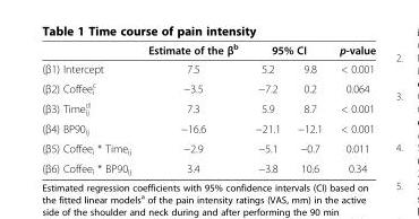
<table><thead><tr><td rowspan="2">(β1) Intercept</td><td rowspan="2">Estimate of the β<sup>b</sup> 7.5</td><td colspan="2">95% CI</td><td rowspan="2">p-value &lt; 0.001</td></tr><tr><td>5.2</td><td>9.8</td></tr></thead><tbody><tr><td>(β2) Coffee<sub>i</sub> <sup>c</sup></td><td>−3.5</td><td>−7.2</td><td>0.2</td><td>0.064</td></tr><tr><td>(β3) Time<sub>ij</sub> <sup>d</sup></td><td>7.3</td><td>5.9</td><td>8.7</td><td>&lt; 0.001</td></tr><tr><td>(β4) BP90<sub>ij</sub></td><td>−16.6</td><td>−21.1</td><td>−12.1</td><td>&lt; 0.001</td></tr><tr><td>(β5) Coffee<sub>i</sub> * Time<sub>ij</sub></td><td>−2.9</td><td>−5.1</td><td>−0.7</td><td>0.011</td></tr><tr><td>(β6) Coffee<sub>i</sub> * BP90<sub>ij</sub></td><td>3.4</td><td>−3.8</td><td>10.6</td><td>0.34</td></tr></tbody></table>